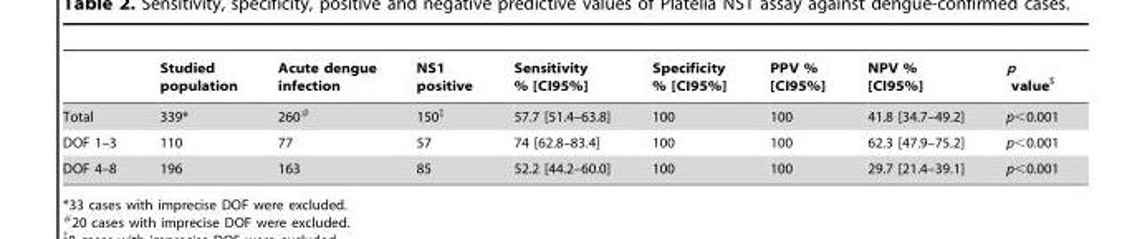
<table><thead><tr><td></td><td>Studied population</td><td>Acute dengue infection</td><td>NS1 positive</td><td>Sensitivity % [CI95%]</td><td>Specificity % [CI95%]</td><td>PPV % [CI95%]</td><td>NPV % [CI95%]</td><td>p value$</td></tr></thead><tbody><tr><td>Total</td><td>339*</td><td>260#</td><td>150‡</td><td>57.7 [51.4–63.8]</td><td>100</td><td>100</td><td>41.8 [34.7–49.2]</td><td>p&lt;0.001</td></tr><tr><td>DOF 1–3</td><td>110</td><td>77</td><td>57</td><td>74 [62.8–83.4]</td><td>100</td><td>100</td><td>62.3 [47.9–75.2]</td><td>p&lt;0.001</td></tr><tr><td>DOF 4–8</td><td>196</td><td>163</td><td>85</td><td>52.2 [44.2–60.0]</td><td>100</td><td>100</td><td>29.7 [21.4–39.1]</td><td>p&lt;0.001</td></tr></tbody></table>